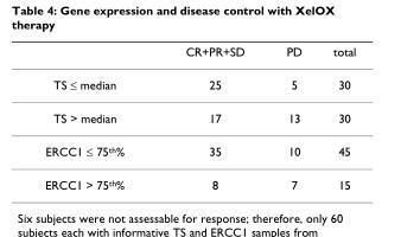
<table><thead><tr><td></td><td>CR+PR+SD</td><td>PD</td><td>total</td></tr></thead><tbody><tr><td>TS ≤ median</td><td>25</td><td>5</td><td>30</td></tr><tr><td>TS &gt; median</td><td>17</td><td>13</td><td>30</td></tr><tr><td>ERCC1 ≤ 75<sup>th</sup>%</td><td>35</td><td>10</td><td>45</td></tr><tr><td>ERCC1 &gt; 75<sup>th</sup>%</td><td>8</td><td>7</td><td>15</td></tr></tbody></table>